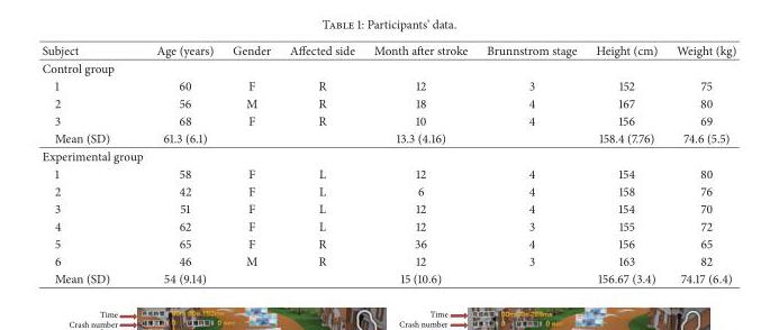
<table><thead><tr><td>Subject</td><td>Age (years)</td><td>Gender</td><td>Affected side</td><td>Month after stroke</td><td>Brunnstrom stage</td><td>Height (cm)</td><td>Weight (kg)</td></tr></thead><tbody><tr><td colspan="8">Control group</td></tr><tr><td>1</td><td>60</td><td>F</td><td>R</td><td>12</td><td>3</td><td>152</td><td>75</td></tr><tr><td>2</td><td>56</td><td>M</td><td>R</td><td>18</td><td>4</td><td>167</td><td>80</td></tr><tr><td>3</td><td>68</td><td>F</td><td>R</td><td>10</td><td>4</td><td>156</td><td>69</td></tr><tr><td>Mean (SD)</td><td>61.3 (6.1)</td><td></td><td></td><td>13.3 (4.16)</td><td></td><td>158.4 (7.76)</td><td>74.6 (5.5)</td></tr><tr><td colspan="8">Experimental group</td></tr><tr><td>1</td><td>58</td><td>F</td><td>L</td><td>12</td><td>4</td><td>154</td><td>80</td></tr><tr><td>2</td><td>42</td><td>F</td><td>L</td><td>6</td><td>4</td><td>158</td><td>76</td></tr><tr><td>3</td><td>51</td><td>F</td><td>L</td><td>12</td><td>4</td><td>154</td><td>70</td></tr><tr><td>4</td><td>62</td><td>F</td><td>L</td><td>12</td><td>3</td><td>155</td><td>72</td></tr><tr><td>5</td><td>65</td><td>F</td><td>R</td><td>36</td><td>4</td><td>156</td><td>65</td></tr><tr><td>6</td><td>46</td><td>M</td><td>R</td><td>12</td><td>3</td><td>163</td><td>82</td></tr><tr><td>Mean (SD)</td><td>54 (9.14)</td><td></td><td></td><td>15 (10.6)</td><td></td><td>156.67 (3.4)</td><td>74.17 (6.4)</td></tr></tbody></table>